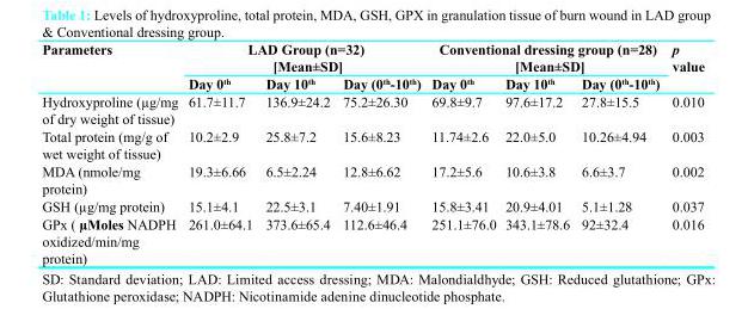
<table><thead><tr><td rowspan="2">Parameters</td><td colspan="3">LAD Group (n=32) [Mean±SD]</td><td colspan="3">Conventional dressing group (n=28) [Mean±SD]</td><td rowspan="2">p value</td></tr><tr><td>Day 0<sup>th</sup></td><td>Day 10<sup>th</sup></td><td>Day (0<sup>th</sup>-10<sup>th</sup>)</td><td>Day 0<sup>th</sup></td><td>Day 10<sup>th</sup></td><td>Day (0<sup>th</sup>-10<sup>th</sup>)</td></tr></thead><tbody><tr><td>Hydroxyproline (µg/mg of dry weight of tissue)</td><td>61.7±11.7</td><td>136.9±24.2</td><td>75.2±26.30</td><td>69.8±9.7</td><td>97.6±17.2</td><td>27.8±15.5</td><td>0.010</td></tr><tr><td>Total protein (mg/g of wet weight of tissue)</td><td>10.2±2.9</td><td>25.8±7.2</td><td>15.6±8.23</td><td>11.74±2.6</td><td>22.0±5.0</td><td>10.26±4.94</td><td>0.003</td></tr><tr><td>MDA (nmole/mg protein)</td><td>19.3±6.66</td><td>6.5±2.24</td><td>12.8±6.62</td><td>17.2±5.6</td><td>10.6±3.8</td><td>6.6±3.7</td><td>0.002</td></tr><tr><td>GSH (µg/mg protein)</td><td>15.1±4.1</td><td>22.5±3.1</td><td>7.40±1.91</td><td>15.8±3.41</td><td>20.9±4.01</td><td>5.1±1.28</td><td>0.037</td></tr><tr><td>GPx ( µMoles NADPH oxidized/min/mg protein)</td><td>261.0±64.1</td><td>373.6±65.4</td><td>112.6±46.4</td><td>251.1±76.0</td><td>343.1±78.6</td><td>92±32.4</td><td>0.016</td></tr></tbody></table>